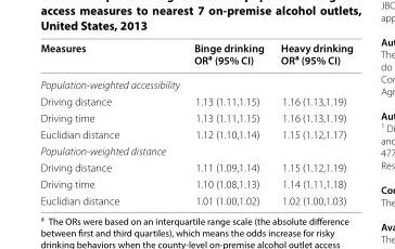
<table><thead><tr><td>Measures</td><td>Binge drinking OR<sup>a</sup> (95% CI)</td><td>Heavy drinking OR<sup>a</sup> (95% CI)</td></tr></thead><tbody><tr><td colspan="3">Population-weighted accessibility</td></tr><tr><td>Driving distance</td><td>1.13 (1.11,1.15)</td><td>1.16 (1.13,1.19)</td></tr><tr><td>Driving time</td><td>1.13 (1.11,1.15)</td><td>1.16 (1.13,1.19)</td></tr><tr><td>Euclidian distance</td><td>1.12 (1.10,1.14)</td><td>1.15 (1.12,1.17)</td></tr><tr><td colspan="3">Population-weighted distance</td></tr><tr><td>Driving distance</td><td>1.11 (1.09,1.14)</td><td>1.15 (1.12,1.19)</td></tr><tr><td>Driving time</td><td>1.10 (1.08,1.13)</td><td>1.14 (1.11,1.18)</td></tr><tr><td>Euclidian distance</td><td>1.01 (1.00,1.02)</td><td>1.02 (1.00,1.03)</td></tr></tbody></table>